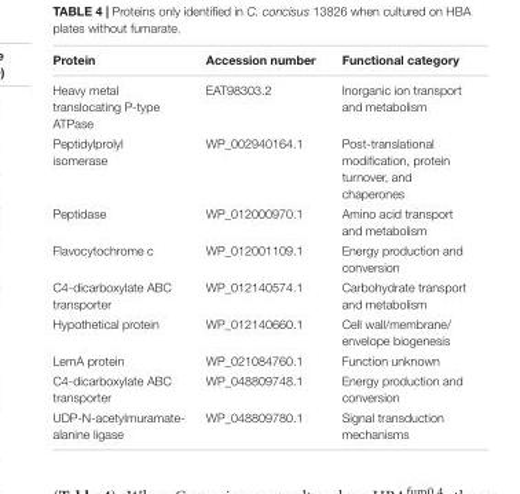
<table><thead><tr><td>Protein</td><td>Accession number</td><td>Functional category</td></tr></thead><tbody><tr><td>Heavy metal translocating P-type ATPase</td><td>EAT98303.2</td><td>Inorganic ion transport and metabolism</td></tr><tr><td>Peptidylprolyl isomerase</td><td>WP_002940164.1</td><td>Post-translational modification, protein turnover, and chaperones</td></tr><tr><td>Peptidase</td><td>WP_012000970.1</td><td>Amino acid transport and metabolism</td></tr><tr><td>Flavocytochrome c</td><td>WP_012001109.1</td><td>Energy production and conversion</td></tr><tr><td>C4-dicarboxylate ABC transporter</td><td>WP_012140574.1</td><td>Carbohydrate transport and metabolism</td></tr><tr><td>Hypothetical protein</td><td>WP_012140660.1</td><td>Cell wall/membrane/ envelope biogenesis</td></tr><tr><td>LemA protein</td><td>WP_021084760.1</td><td>Function unknown</td></tr><tr><td>C4-dicarboxylate ABC transporter</td><td>WP_048809748.1</td><td>Energy production and conversion</td></tr><tr><td>UDP-N-acetylmuramate- alanine ligase</td><td>WP_048809780.1</td><td>Signal transduction mechanisms</td></tr></tbody></table>